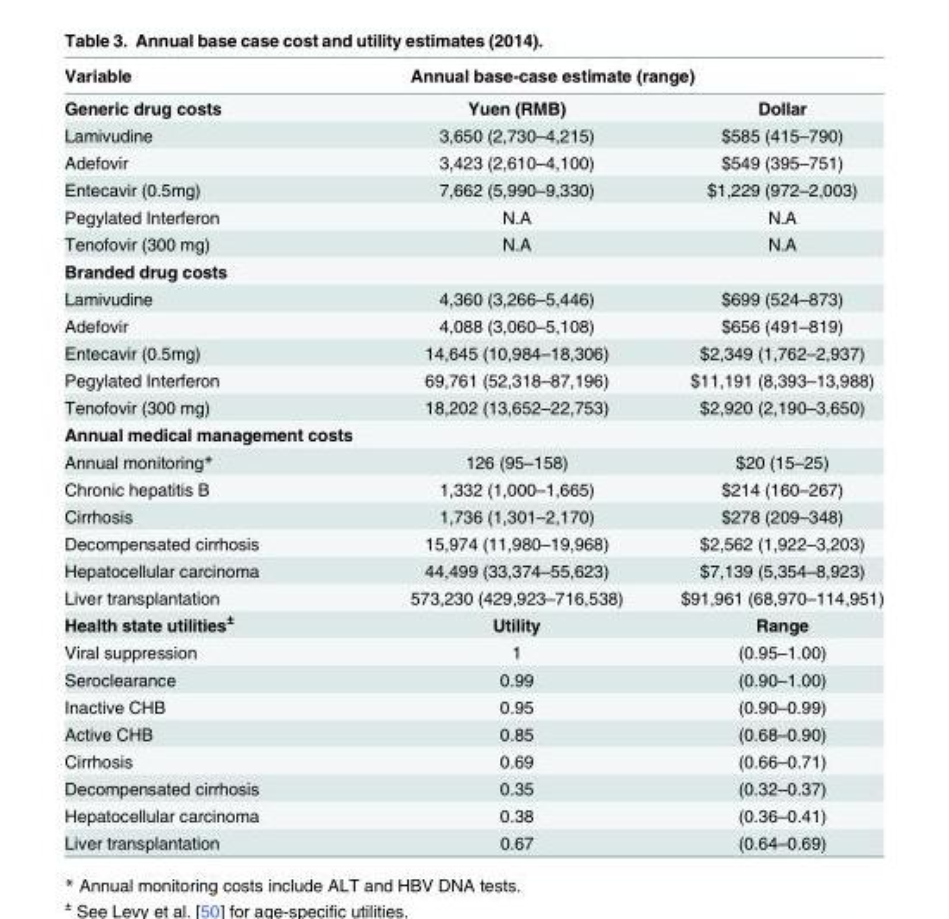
<table><thead><tr><td rowspan="2">Variable Generic drug costs</td><td colspan="2">Annual base-case estimate (range)</td></tr><tr><td>Yuen (RMB)</td><td>Dollar</td></tr></thead><tbody><tr><td>Lamivudine</td><td>3,650 (2,730–4,215)</td><td>$585 (415–790)</td></tr><tr><td>Adefovir</td><td>3,423 (2,610–4,100)</td><td>$549 (395–751)</td></tr><tr><td>Entecavir (0.5mg)</td><td>7,662 (5,990–9,330)</td><td>$1,229 (972–2,003)</td></tr><tr><td>Pegylated Interferon</td><td>N.A</td><td>N.A</td></tr><tr><td>Tenofovir (300 mg)</td><td>N.A</td><td>N.A</td></tr><tr><td colspan="3">Branded drug costs</td></tr><tr><td>Lamivudine</td><td>4,360 (3,266–5,446)</td><td>$699 (524–873)</td></tr><tr><td>Adefovir</td><td>4,088 (3,060–5,108)</td><td>$656 (491–819)</td></tr><tr><td>Entecavir (0.5mg)</td><td>14,645 (10,984–18,306)</td><td>$2,349 (1,762–2,937)</td></tr><tr><td>Pegylated Interferon</td><td>69,761 (52,318–87,196)</td><td>$11,191 (8,393–13,988)</td></tr><tr><td>Tenofovir (300 mg)</td><td>18,202 (13,652–22,753)</td><td>$2,920 (2,190–3,650)</td></tr><tr><td colspan="3">Annual medical management costs</td></tr><tr><td>Annual monitoring*</td><td>126 (95–158)</td><td>$20 (15–25)</td></tr><tr><td>Chronic hepatitis B</td><td>1,332 (1,000–1,665)</td><td>$214 (160–267)</td></tr><tr><td>Cirrhosis</td><td>1,736 (1,301–2,170)</td><td>$278 (209–348)</td></tr><tr><td>Decompensated cirrhosis</td><td>15,974 (11,980–19,968)</td><td>$2,562 (1,922–3,203)</td></tr><tr><td>Hepatocellular carcinoma</td><td>44,499 (33,374–55,623)</td><td>$7,139 (5,354–8,923)</td></tr><tr><td>Liver transplantation</td><td>573,230 (429,923–716,538)</td><td>$91,961 (68,970–114,951)</td></tr><tr><td>Health state utilities<sup>±</sup></td><td>Utility</td><td>Range</td></tr><tr><td>Viral suppression</td><td>1</td><td>(0.95–1.00)</td></tr><tr><td>Seroclearance</td><td>0.99</td><td>(0.90–1.00)</td></tr><tr><td>Inactive CHB</td><td>0.95</td><td>(0.90–0.99)</td></tr><tr><td>Active CHB</td><td>0.85</td><td>(0.68–0.90)</td></tr><tr><td>Cirrhosis</td><td>0.69</td><td>(0.66–0.71)</td></tr><tr><td>Decompensated cirrhosis</td><td>0.35</td><td>(0.32–0.37)</td></tr><tr><td>Hepatocellular carcinoma</td><td>0.38</td><td>(0.36–0.41)</td></tr><tr><td>Liver transplantation</td><td>0.67</td><td>(0.64–0.69)</td></tr></tbody></table>